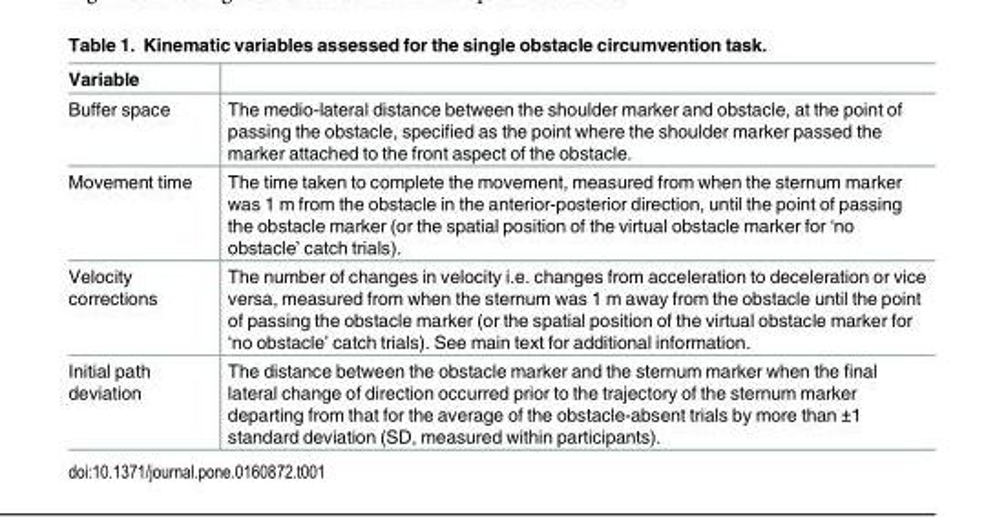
<table><thead><tr><td>Variable</td><td></td></tr></thead><tbody><tr><td>Buffer space</td><td>The medio-lateral distance between the shoulder marker and obstacle, at the point of passing the obstacle, specified as the point where the shoulder marker passed the marker attached to the front aspect of the obstacle.</td></tr><tr><td>Movement time</td><td>The time taken to complete the movement, measured from when the sternum marker was 1 m from the obstacle in the anterior-posterior direction, until the point of passing the obstacle marker (or the spatial position of the virtual obstacle marker for ‘no obstacle’ catch trials).</td></tr><tr><td>Velocity corrections</td><td>The number of changes in velocity i.e. changes from acceleration to deceleration or vice versa, measured from when the sternum was 1 m away from the obstacle until the point of passing the obstacle marker (or the spatial position of the virtual obstacle marker for ‘no obstacle’ catch trials). See main text for additional information.</td></tr><tr><td>Initial path deviation</td><td>The distance between the obstacle marker and the sternum marker when the final lateral change of direction occurred prior to the trajectory of the sternum marker departing from that for the average of the obstacle-absent trials by more than ±1 standard deviation (SD, measured within participants).</td></tr></tbody></table>